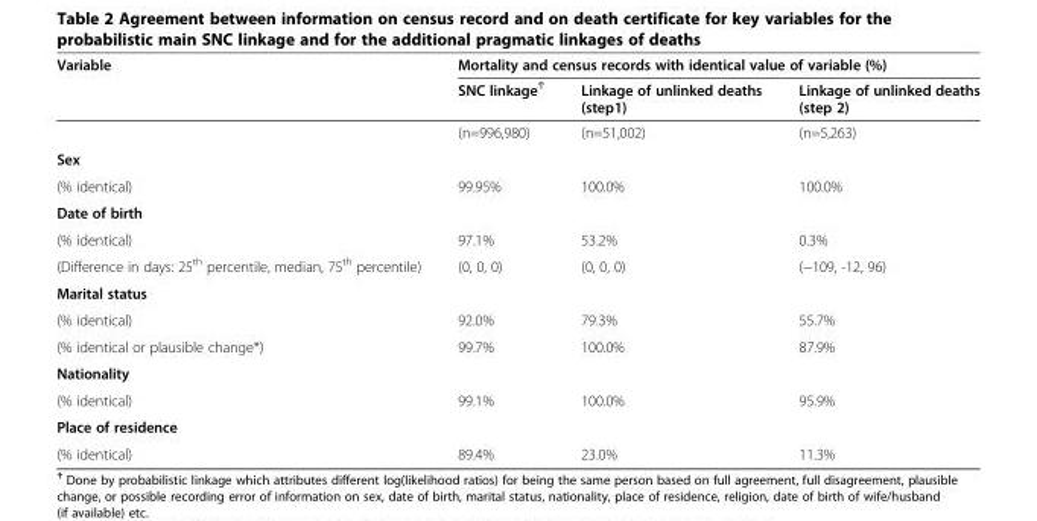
<table><thead><tr><td rowspan="2">Variable</td><td colspan="3">Mortality and census records with identical value of variable (%)</td></tr><tr><td>SNC linkage<sup>Ϯ</sup></td><td>Linkage of unlinked deaths (step1)</td><td>Linkage of unlinked deaths (step 2)</td></tr></thead><tbody><tr><td></td><td>(n=996,980)</td><td>(n=51,002)</td><td>(n=5,263)</td></tr><tr><td colspan="4">Sex</td></tr><tr><td>(% identical)</td><td>99.95%</td><td>100.0%</td><td>100.0%</td></tr><tr><td colspan="4">Date of birth</td></tr><tr><td>(% identical)</td><td>97.1%</td><td>53.2%</td><td>0.3%</td></tr><tr><td>(Difference in days: 25<sup>th</sup> percentile, median, 75<sup>th</sup> percentile)</td><td>(0, 0, 0)</td><td>(0, 0, 0)</td><td>(−109, -12, 96)</td></tr><tr><td colspan="4">Marital status</td></tr><tr><td>(% identical)</td><td>92.0%</td><td>79.3%</td><td>55.7%</td></tr><tr><td>(% identical or plausible change*)</td><td>99.7%</td><td>100.0%</td><td>87.9%</td></tr><tr><td colspan="4">Nationality</td></tr><tr><td>(% identical)</td><td>99.1%</td><td>100.0%</td><td>95.9%</td></tr><tr><td colspan="4">Place of residence</td></tr><tr><td>(% identical)</td><td>89.4%</td><td>23.0%</td><td>11.3%</td></tr></tbody></table>